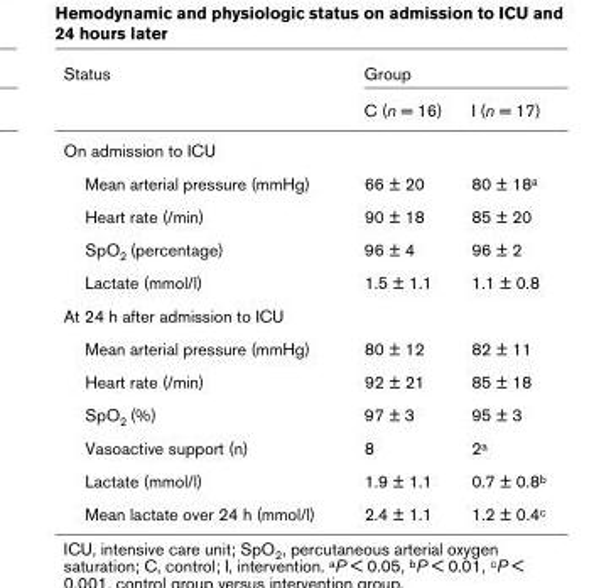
<table><thead><tr><td rowspan="2">Status</td><td colspan="2">Group</td></tr><tr><td>C (n = 16)</td><td>I (n = 17)</td></tr></thead><tbody><tr><td colspan="3">On admission to ICU</td></tr><tr><td>Mean arterial pressure (mmHg)</td><td>66 ± 20</td><td>80 ± 18<sup>a</sup></td></tr><tr><td>Heart rate (/min)</td><td>90 ± 18</td><td>85 ± 20</td></tr><tr><td>SpO<sub>2</sub> (percentage)</td><td>96 ± 4</td><td>96 ± 2</td></tr><tr><td>Lactate (mmol/l)</td><td>1.5 ± 1.1</td><td>1.1 ± 0.8</td></tr><tr><td colspan="3">At 24 h after admission to ICU</td></tr><tr><td>Mean arterial pressure (mmHg)</td><td>80 ± 12</td><td>82 ± 11</td></tr><tr><td>Heart rate (/min)</td><td>92 ± 21</td><td>85 ± 18</td></tr><tr><td>SpO<sub>2</sub> (%)</td><td>97 ± 3</td><td>95 ± 3</td></tr><tr><td>Vasoactive support (n)</td><td>8</td><td>2<sup>a</sup></td></tr><tr><td>Lactate (mmol/l)</td><td>1.9 ± 1.1</td><td>0.7 ± 0.8<sup>b</sup></td></tr><tr><td>Mean lactate over 24 h (mmol/l)</td><td>2.4 ± 1.1</td><td>1.2 ± 0.4<sup>c</sup></td></tr></tbody></table>